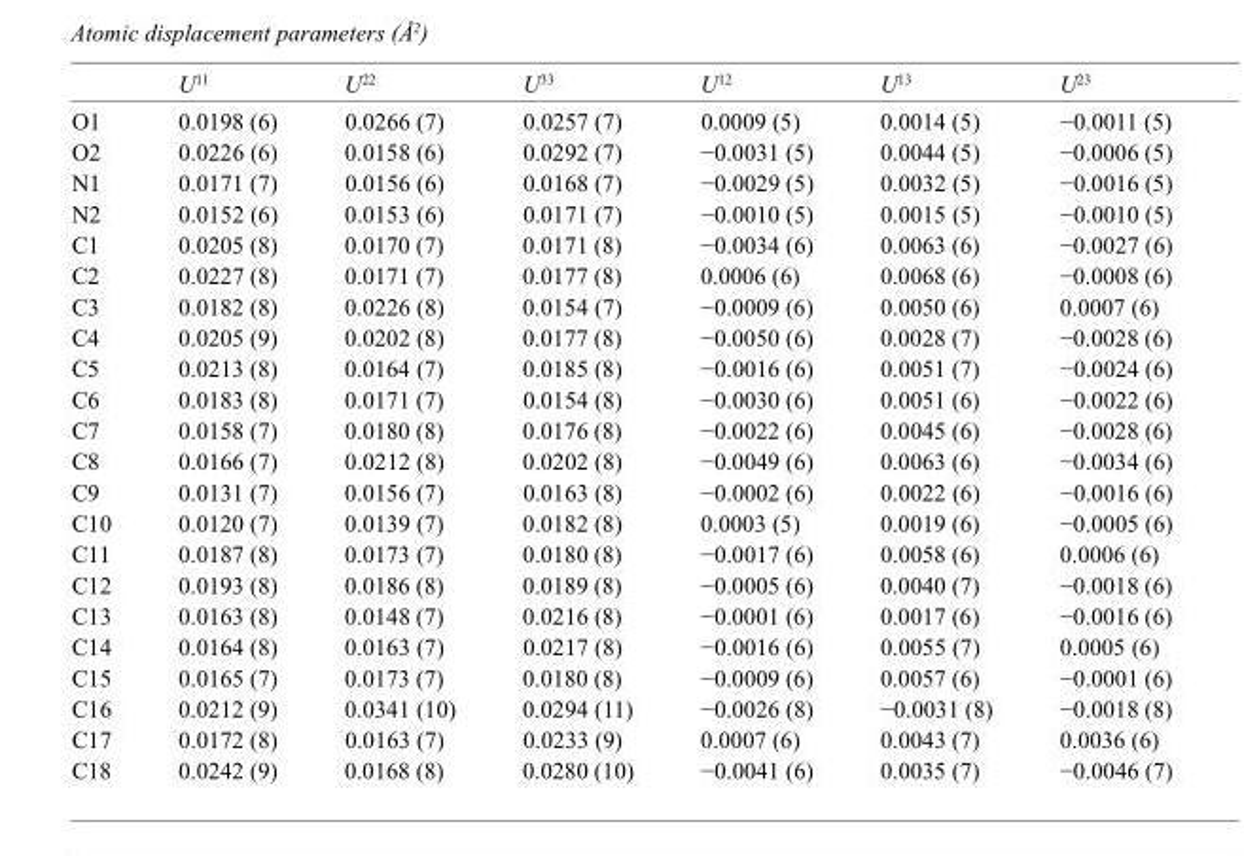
<table><thead><tr><td></td><td>U<sup>11</sup></td><td>U<sup>22</sup></td><td>U<sup>33</sup></td><td>U<sup>12</sup></td><td>U<sup>13</sup></td><td>U<sup>23</sup></td></tr></thead><tbody><tr><td>O1</td><td>0.0198 (6)</td><td>0.0266 (7)</td><td>0.0257 (7)</td><td>0.0009 (5)</td><td>0.0014 (5)</td><td>−0.0011 (5)</td></tr><tr><td>O2</td><td>0.0226 (6)</td><td>0.0158 (6)</td><td>0.0292 (7)</td><td>−0.0031 (5)</td><td>0.0044 (5)</td><td>−0.0006 (5)</td></tr><tr><td>N1</td><td>0.0171 (7)</td><td>0.0156 (6)</td><td>0.0168 (7)</td><td>−0.0029 (5)</td><td>0.0032 (5)</td><td>−0.0016 (5)</td></tr><tr><td>N2</td><td>0.0152 (6)</td><td>0.0153 (6)</td><td>0.0171 (7)</td><td>−0.0010 (5)</td><td>0.0015 (5)</td><td>−0.0010 (5)</td></tr><tr><td>C1</td><td>0.0205 (8)</td><td>0.0170 (7)</td><td>0.0171 (8)</td><td>−0.0034 (6)</td><td>0.0063 (6)</td><td>−0.0027 (6)</td></tr><tr><td>C2</td><td>0.0227 (8)</td><td>0.0171 (7)</td><td>0.0177 (8)</td><td>0.0006 (6)</td><td>0.0068 (6)</td><td>−0.0008 (6)</td></tr><tr><td>C3</td><td>0.0182 (8)</td><td>0.0226 (8)</td><td>0.0154 (7)</td><td>−0.0009 (6)</td><td>0.0050 (6)</td><td>0.0007 (6)</td></tr><tr><td>C4</td><td>0.0205 (9)</td><td>0.0202 (8)</td><td>0.0177 (8)</td><td>−0.0050 (6)</td><td>0.0028 (7)</td><td>−0.0028 (6)</td></tr><tr><td>C5</td><td>0.0213 (8)</td><td>0.0164 (7)</td><td>0.0185 (8)</td><td>−0.0016 (6)</td><td>0.0051 (7)</td><td>−0.0024 (6)</td></tr><tr><td>C6</td><td>0.0183 (8)</td><td>0.0171 (7)</td><td>0.0154 (8)</td><td>−0.0030 (6)</td><td>0.0051 (6)</td><td>−0.0022 (6)</td></tr><tr><td>C7</td><td>0.0158 (7)</td><td>0.0180 (8)</td><td>0.0176 (8)</td><td>−0.0022 (6)</td><td>0.0045 (6)</td><td>−0.0028 (6)</td></tr><tr><td>C8</td><td>0.0166 (7)</td><td>0.0212 (8)</td><td>0.0202 (8)</td><td>−0.0049 (6)</td><td>0.0063 (6)</td><td>−0.0034 (6)</td></tr><tr><td>C9</td><td>0.0131 (7)</td><td>0.0156 (7)</td><td>0.0163 (8)</td><td>−0.0002 (6)</td><td>0.0022 (6)</td><td>−0.0016 (6)</td></tr><tr><td>C10</td><td>0.0120 (7)</td><td>0.0139 (7)</td><td>0.0182 (8)</td><td>0.0003 (5)</td><td>0.0019 (6)</td><td>−0.0005 (6)</td></tr><tr><td>C11</td><td>0.0187 (8)</td><td>0.0173 (7)</td><td>0.0180 (8)</td><td>−0.0017 (6)</td><td>0.0058 (6)</td><td>0.0006 (6)</td></tr><tr><td>C12</td><td>0.0193 (8)</td><td>0.0186 (8)</td><td>0.0189 (8)</td><td>−0.0005 (6)</td><td>0.0040 (7)</td><td>−0.0018 (6)</td></tr><tr><td>C13</td><td>0.0163 (8)</td><td>0.0148 (7)</td><td>0.0216 (8)</td><td>−0.0001 (6)</td><td>0.0017 (6)</td><td>−0.0016 (6)</td></tr><tr><td>C14</td><td>0.0164 (8)</td><td>0.0163 (7)</td><td>0.0217 (8)</td><td>−0.0016 (6)</td><td>0.0055 (7)</td><td>0.0005 (6)</td></tr><tr><td>C15</td><td>0.0165 (7)</td><td>0.0173 (7)</td><td>0.0180 (8)</td><td>−0.0009 (6)</td><td>0.0057 (6)</td><td>−0.0001 (6)</td></tr><tr><td>C16</td><td>0.0212 (9)</td><td>0.0341 (10)</td><td>0.0294 (11)</td><td>−0.0026 (8)</td><td>−0.0031 (8)</td><td>−0.0018 (8)</td></tr><tr><td>C17</td><td>0.0172 (8)</td><td>0.0163 (7)</td><td>0.0233 (9)</td><td>0.0007 (6)</td><td>0.0043 (7)</td><td>0.0036 (6)</td></tr><tr><td>C18</td><td>0.0242 (9)</td><td>0.0168 (8)</td><td>0.0280 (10)</td><td>−0.0041 (6)</td><td>0.0035 (7)</td><td>−0.0046 (7)</td></tr></tbody></table>